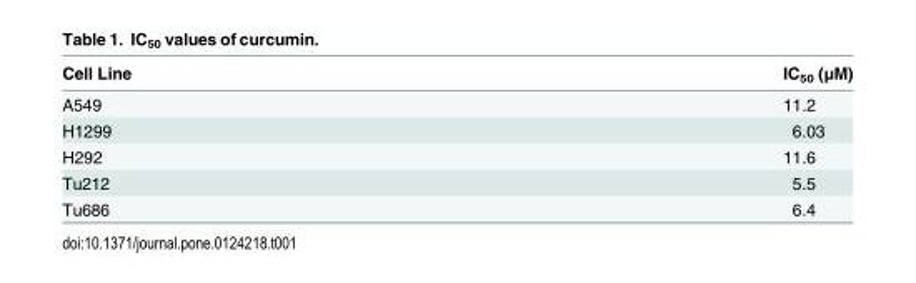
<table><thead><tr><td>Cell Line</td><td>IC<sub>50</sub> (μM)</td></tr></thead><tbody><tr><td>A549</td><td>11.2</td></tr><tr><td>H1299</td><td>6.03</td></tr><tr><td>H292</td><td>11.6</td></tr><tr><td>Tu212</td><td>5.5</td></tr><tr><td>Tu686</td><td>6.4</td></tr></tbody></table>